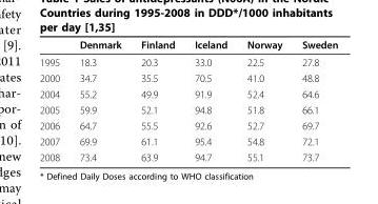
<table><thead><tr><td></td><td>Denmark</td><td>Finland</td><td>Iceland</td><td>Norway</td><td>Sweden</td></tr></thead><tbody><tr><td>1995</td><td>18.3</td><td>20.3</td><td>33.0</td><td>22.5</td><td>27.8</td></tr><tr><td>2000</td><td>34.7</td><td>35.5</td><td>70.5</td><td>41.0</td><td>48.8</td></tr><tr><td>2004</td><td>55.2</td><td>49.9</td><td>91.9</td><td>52.4</td><td>64.6</td></tr><tr><td>2005</td><td>59.9</td><td>52.1</td><td>94.8</td><td>51.8</td><td>66.1</td></tr><tr><td>2006</td><td>64.7</td><td>55.5</td><td>92.6</td><td>52.7</td><td>69.7</td></tr><tr><td>2007</td><td>69.9</td><td>61.1</td><td>95.4</td><td>54.8</td><td>72.1</td></tr><tr><td>2008</td><td>73.4</td><td>63.9</td><td>94.7</td><td>55.1</td><td>73.7</td></tr></tbody></table>